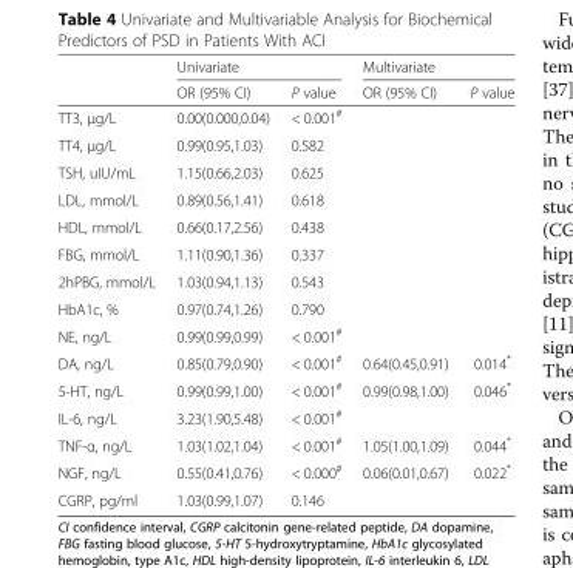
<table><thead><tr><td rowspan="2"></td><td colspan="2">Univariate</td><td colspan="2">Multivariate</td></tr><tr><td>OR (95% CI)</td><td>P value</td><td>OR (95% CI)</td><td>P value</td></tr></thead><tbody><tr><td>TT3, μg/L</td><td>0.00(0.000,0.04)</td><td>&lt; 0.001<sup>#</sup></td><td></td><td></td></tr><tr><td>TT4, μg/L</td><td>0.99(0.95,1.03)</td><td>0.582</td><td></td><td></td></tr><tr><td>TSH, uIU/mL</td><td>1.15(0.66,2.03)</td><td>0.625</td><td></td><td></td></tr><tr><td>LDL, mmol/L</td><td>0.89(0.56,1.41)</td><td>0.618</td><td></td><td></td></tr><tr><td>HDL, mmol/L</td><td>0.66(0.17,2.56)</td><td>0.438</td><td></td><td></td></tr><tr><td>FBG, mmol/L</td><td>1.11(0.90,1.36)</td><td>0.337</td><td></td><td></td></tr><tr><td>2hPBG, mmol/L</td><td>1.03(0.94,1.13)</td><td>0.543</td><td></td><td></td></tr><tr><td>HbA1c, %</td><td>0.97(0.74,1.26)</td><td>0.790</td><td></td><td></td></tr><tr><td>NE, ng/L</td><td>0.99(0.99,0.99)</td><td>&lt; 0.001<sup>#</sup></td><td></td><td></td></tr><tr><td>DA, ng/L</td><td>0.85(0.79,0.90)</td><td>&lt; 0.001<sup>#</sup></td><td>0.64(0.45,0.91)</td><td>0.014*</td></tr><tr><td>5-HT, ng/L</td><td>0.99(0.99,1.00)</td><td>&lt; 0.001<sup>#</sup></td><td>0.99(0.98,1.00)</td><td>0.046*</td></tr><tr><td>IL-6, ng/L</td><td>3.23(1.90,5.48)</td><td>&lt; 0.001<sup>#</sup></td><td></td><td></td></tr><tr><td>TNF-α, ng/L</td><td>1.03(1.02,1.04)</td><td>&lt; 0.001<sup>#</sup></td><td>1.05(1.00,1.09)</td><td>0.044*</td></tr><tr><td>NGF, ng/L</td><td>0.55(0.41,0.76)</td><td>&lt; 0.000<sup>#</sup></td><td>0.06(0.01,0.67)</td><td>0.022*</td></tr><tr><td>CGRP, pg/ml</td><td>1.03(0.99,1.07)</td><td>0.146</td><td></td><td></td></tr></tbody></table>